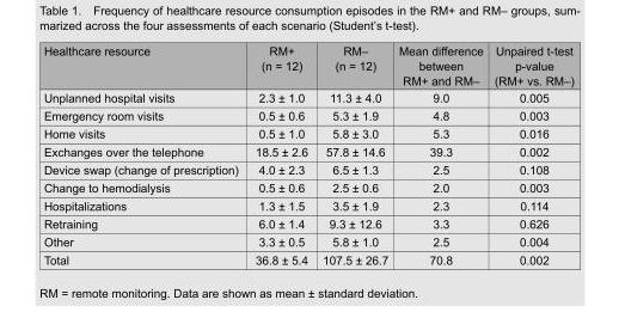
<table><thead><tr><td>Healthcare resource</td><td>RM+ (n = 12)</td><td>RM– (n = 12)</td><td>Mean difference between RM+ and RM–</td><td>Unpaired t-test p-value (RM+ vs. RM–)</td></tr></thead><tbody><tr><td>Unplanned hospital visits</td><td>2.3 ± 1.0</td><td>11.3 ± 4.0</td><td>9.0</td><td>0.005</td></tr><tr><td>Emergency room visits</td><td>0.5 ± 0.6</td><td>5.3 ± 1.9</td><td>4.8</td><td>0.003</td></tr><tr><td>Home visits</td><td>0.5 ± 1.0</td><td>5.8 ± 3.0</td><td>5.3</td><td>0.016</td></tr><tr><td>Exchanges over the telephone</td><td>18.5 ± 2.6</td><td>57.8 ± 14.6</td><td>39.3</td><td>0.002</td></tr><tr><td>Device swap (change of prescription)</td><td>4.0 ± 2.3</td><td>6.5 ± 1.3</td><td>2.5</td><td>0.108</td></tr><tr><td>Change to hemodialysis</td><td>0.5 ± 0.6</td><td>2.5 ± 0.6</td><td>2.0</td><td>0.003</td></tr><tr><td>Hospitalizations</td><td>1.3 ± 1.5</td><td>3.5 ± 1.9</td><td>2.3</td><td>0.114</td></tr><tr><td>Retraining</td><td>6.0 ± 1.4</td><td>9.3 ± 12.6</td><td>3.3</td><td>0.626</td></tr><tr><td>Other</td><td>3.3 ± 0.5</td><td>5.8 ± 1.0</td><td>2.5</td><td>0.004</td></tr><tr><td>Total</td><td>36.8 ± 5.4</td><td>107.5 ± 26.7</td><td>70.8</td><td>0.002</td></tr></tbody></table>